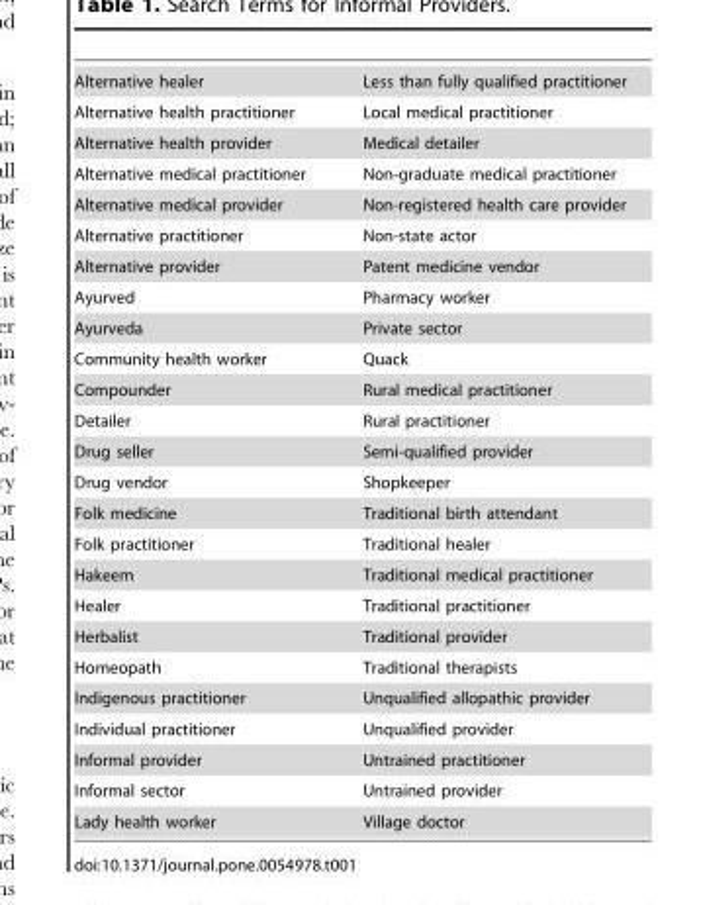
<table><tbody><tr><td>Alternative healer</td><td>Less than fully qualified practitioner</td></tr><tr><td>Alternative health practitioner</td><td>Local medical practitioner</td></tr><tr><td>Alternative health provider</td><td>Medical detailer</td></tr><tr><td>Alternative medical practitioner</td><td>Non-graduate medical practitioner</td></tr><tr><td>Alternative medical provider</td><td>Non-registered health care provider</td></tr><tr><td>Alternative practitioner</td><td>Non-state actor</td></tr><tr><td>Alternative provider</td><td>Patent medicine vendor</td></tr><tr><td>Ayurved</td><td>Pharmacy worker</td></tr><tr><td>Ayurveda</td><td>Private sector</td></tr><tr><td>Community health worker</td><td>Quack</td></tr><tr><td>Compounder</td><td>Rural medical practitioner</td></tr><tr><td>Detailer</td><td>Rural practitioner</td></tr><tr><td>Drug seller</td><td>Semi-qualified provider</td></tr><tr><td>Drug vendor</td><td>Shopkeeper</td></tr><tr><td>Folk medicine</td><td>Traditional birth attendant</td></tr><tr><td>Folk practitioner</td><td>Traditional healer</td></tr><tr><td>Hakeem</td><td>Traditional medical practitioner</td></tr><tr><td>Healer</td><td>Traditional practitioner</td></tr><tr><td>Herbalist</td><td>Traditional provider</td></tr><tr><td>Homeopath</td><td>Traditional therapists</td></tr><tr><td>Indigenous practitioner</td><td>Unqualified allopathic provider</td></tr><tr><td>Individual practitioner</td><td>Unqualified provider</td></tr><tr><td>Informal provider</td><td>Untrained practitioner</td></tr><tr><td>Informal sector</td><td>Untrained provider</td></tr><tr><td>Lady health worker</td><td>Village doctor</td></tr></tbody></table>